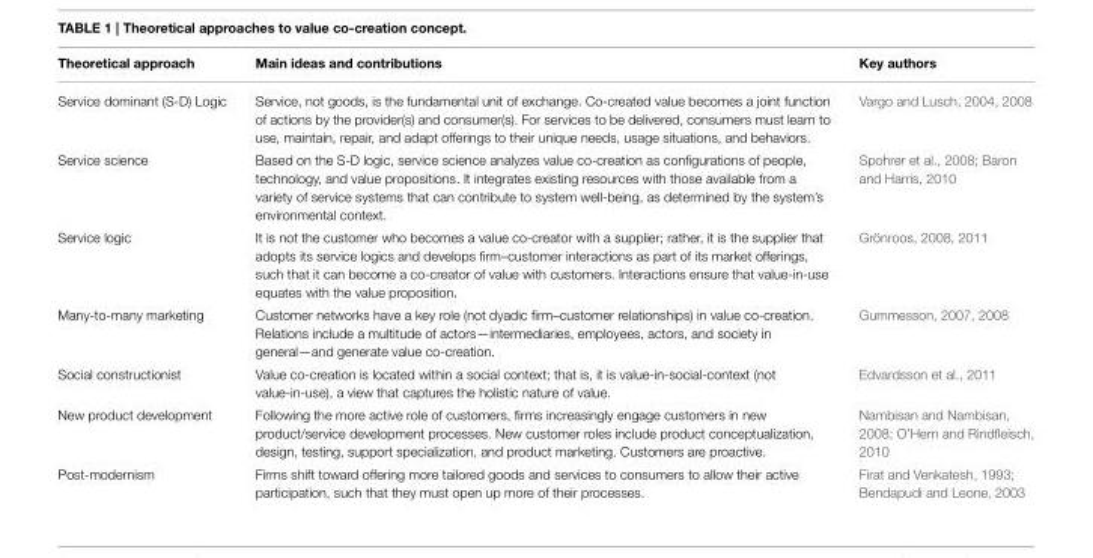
<table><thead><tr><td>Theoretical approach</td><td>Main ideas and contributions</td><td>Key authors</td></tr></thead><tbody><tr><td>Service dominant (S-D) Logic</td><td>Service, not goods, is the fundamental unit of exchange. Co-created value becomes a joint function of actions by the provider(s) and consumer(s). For services to be delivered, consumers must learn to use, maintain, repair, and adapt offerings to their unique needs, usage situations, and behaviors.</td><td>Vargo and Lusch, 2004, 2008</td></tr><tr><td>Service science</td><td>Based on the S-D logic, service science analyzes value co-creation as configurations of people, technology, and value propositions. It integrates existing resources with those available from a variety of service systems that can contribute to system well-being, as determined by the system’s environmental context.</td><td>Spohrer et al., 2008; Baron and Harris, 2010</td></tr><tr><td>Service logic</td><td>It is not the customer who becomes a value co-creator with a supplier; rather, it is the supplier that adopts its service logics and develops firm–customer interactions as part of its market offerings, such that it can become a co-creator of value with customers. Interactions ensure that value-in-use equates with the value proposition.</td><td>Grönroos, 2008, 2011</td></tr><tr><td>Many-to-many marketing</td><td>Customer networks have a key role (not dyadic firm–customer relationships) in value co-creation. Relations include a multitude of actors—intermediaries, employees, actors, and society in general—and generate value co-creation.</td><td>Gummesson, 2007, 2008</td></tr><tr><td>Social constructionist</td><td>Value co-creation is located within a social context; that is, it is value-in-social-context (not value-in-use), a view that captures the holistic nature of value.</td><td>Edvardsson et al., 2011</td></tr><tr><td>New product development</td><td>Following the more active role of customers, firms increasingly engage customers in new product/service development processes. New customer roles include product conceptualization, design, testing, support specialization, and product marketing. Customers are proactive.</td><td>Nambisan and Nambisan, 2008; O’Hern and Rindfleisch, 2010</td></tr><tr><td>Post-modernism</td><td>Firms shift toward offering more tailored goods and services to consumers to allow their active participation, such that they must open up more of their processes.</td><td>Firat and Venkatesh, 1993; Bendapudi and Leone, 2003</td></tr></tbody></table>